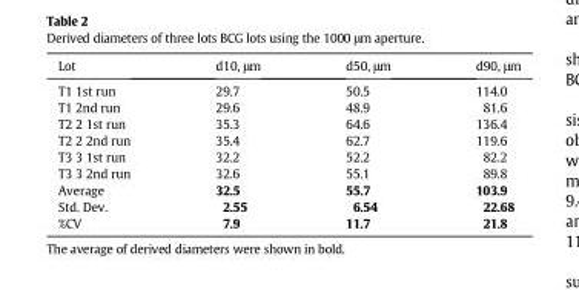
<table><thead><tr><td>Lot</td><td>d10, μm</td><td>d50, μm</td><td>d90, μm</td></tr></thead><tbody><tr><td>T1 1st run</td><td>29.7</td><td>50.5</td><td>114.0</td></tr><tr><td>T1 2nd run</td><td>29.6</td><td>48.9</td><td>81.6</td></tr><tr><td>T2 2 1st run</td><td>35.3</td><td>64.6</td><td>136.4</td></tr><tr><td>T2 2 2nd run</td><td>35.4</td><td>62.7</td><td>119.6</td></tr><tr><td>T3 3 1st run</td><td>32.2</td><td>52.2</td><td>82.2</td></tr><tr><td>T3 3 2nd run</td><td>32.6</td><td>55.1</td><td>89.8</td></tr><tr><td>Average</td><td>32.5</td><td>55.7</td><td>103.9</td></tr><tr><td>Std. Dev.</td><td>2.55</td><td>6.54</td><td>22.68</td></tr><tr><td>%CV</td><td>7.9</td><td>11.7</td><td>21.8</td></tr></tbody></table>